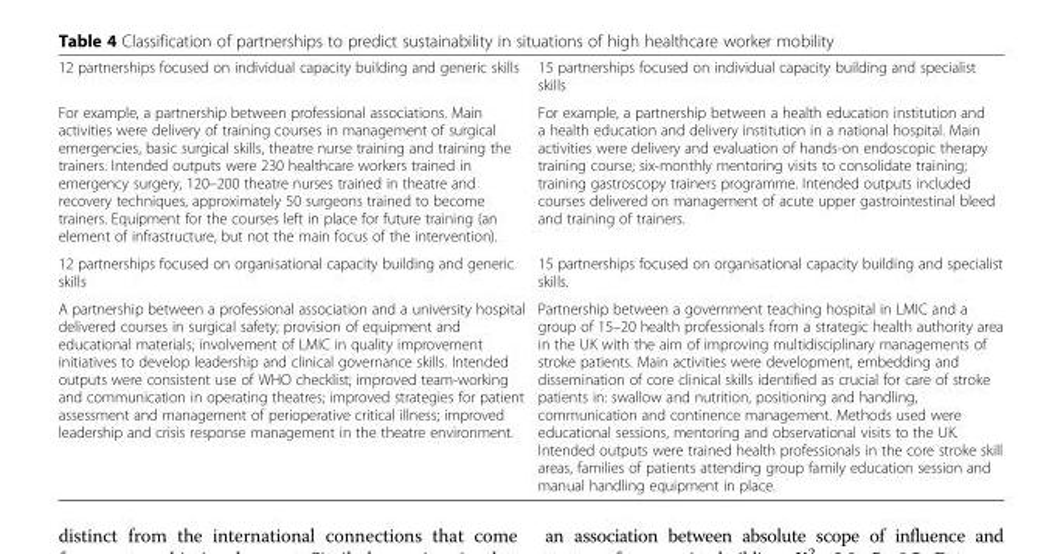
<table><tbody><tr><td>12 partnerships focused on individual capacity building and generic skills</td><td>15 partnerships focused on individual capacity building and specialist skills</td></tr><tr><td>For example, a partnership between professional associations. Main activities were delivery of training courses in management of surgical emergencies, basic surgical skills, theatre nurse training and training the trainers. Intended outputs were 230 healthcare workers trained in emergency surgery, 120–200 theatre nurses trained in theatre and recovery techniques, approximately 50 surgeons trained to become trainers. Equipment for the courses left in place for future training (an element of infrastructure, but not the main focus of the intervention).</td><td>For example, a partnership between a health education institution and a health education and delivery institution in a national hospital. Main activities were delivery and evaluation of hands-on endoscopic therapy training course; six-monthly mentoring visits to consolidate training; training gastroscopy trainers programme. Intended outputs included courses delivered on management of acute upper gastrointestinal bleed and training of trainers.</td></tr><tr><td>12 partnerships focused on organisational capacity building and generic skills</td><td>15 partnerships focused on organisational capacity building and specialist skills.</td></tr><tr><td>A partnership between a professional association and a university hospital delivered courses in surgical safety; provision of equipment and educational materials; involvement of LMIC in quality improvement initiatives to develop leadership and clinical governance skills. Intended outputs were consistent use of WHO checklist; improved team-working and communication in operating theatres; improved strategies for patient assessment and management of perioperative critical illness; improved leadership and crisis response management in the theatre environment.</td><td>Partnership between a government teaching hospital in LMIC and a group of 15–20 health professionals from a strategic health authority area in the UK with the aim of improving multidisciplinary managements of stroke patients. Main activities were development, embedding and dissemination of core clinical skills identified as crucial for care of stroke patients in: swallow and nutrition, positioning and handling, communication and continence management. Methods used were educational sessions, mentoring and observational visits to the UK. Intended outputs were trained health professionals in the core stroke skill areas, families of patients attending group family education session and manual handling equipment in place.</td></tr></tbody></table>